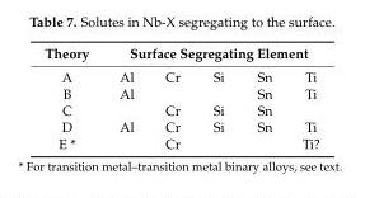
<table><thead><tr><td rowspan="2">Theory A</td><td colspan="5">Surface Segregating Element</td></tr><tr><td>Al</td><td>Cr</td><td>Si</td><td>Sn</td><td>Ti</td></tr></thead><tbody><tr><td>B</td><td>Al</td><td></td><td></td><td>Sn</td><td>Ti</td></tr><tr><td>C</td><td></td><td>Cr</td><td>Si</td><td>Sn</td><td></td></tr><tr><td>D</td><td>Al</td><td>Cr</td><td>Si</td><td>Sn</td><td>Ti</td></tr><tr><td>E *</td><td></td><td>Cr</td><td></td><td></td><td>Ti?</td></tr></tbody></table>